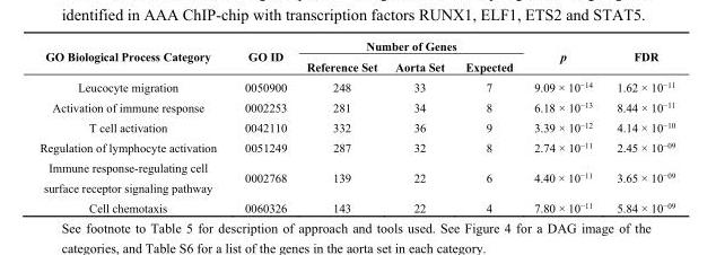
<table><thead><tr><td rowspan="2">GO Biological Process Category</td><td rowspan="2">GO ID</td><td colspan="3">Number of Genes</td><td rowspan="2">p</td><td rowspan="2">FDR</td></tr><tr><td>Reference Set</td><td>Aorta Set</td><td>Expected</td></tr></thead><tbody><tr><td>Leucocyte migration</td><td>0050900</td><td>248</td><td>33</td><td>7</td><td>9.09 × 10<sup>−14</sup></td><td>1.62 × 10<sup>−11</sup></td></tr><tr><td>Activation of immune response</td><td>0002253</td><td>281</td><td>34</td><td>8</td><td>6.18 × 10<sup>−13</sup></td><td>8.44 × 10<sup>−11</sup></td></tr><tr><td>T cell activation</td><td>0042110</td><td>332</td><td>36</td><td>9</td><td>3.39 × 10<sup>−12</sup></td><td>4.14 × 10<sup>−10</sup></td></tr><tr><td>Regulation of lymphocyte activation</td><td>0051249</td><td>287</td><td>32</td><td>8</td><td>2.74 × 10<sup>−11</sup></td><td>2.45 × 10<sup>−09</sup></td></tr><tr><td>Immune response-regulating cell surface receptor signaling pathway</td><td>0002768</td><td>139</td><td>22</td><td>6</td><td>4.40 × 10<sup>−11</sup></td><td>3.65 × 10<sup>−09</sup></td></tr><tr><td>Cell chemotaxis</td><td>0060326</td><td>143</td><td>22</td><td>4</td><td>7.80 × 10<sup>−11</sup></td><td>5.84 × 10<sup>−09</sup></td></tr></tbody></table>